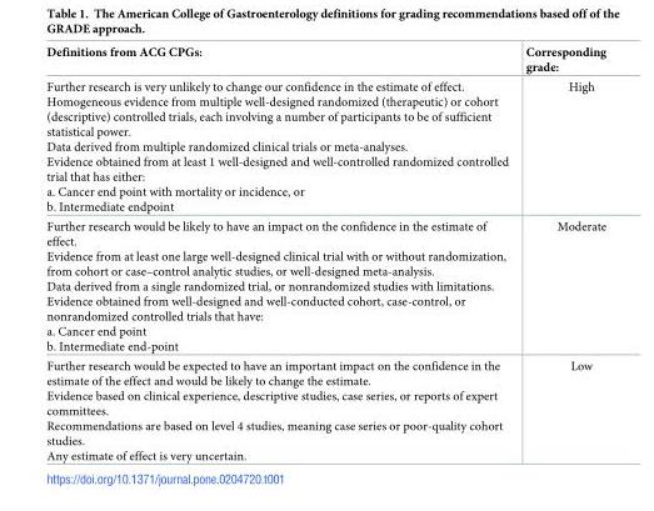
<table><thead><tr><td>Definitions from ACG CPGs:</td><td>Corresponding grade:</td></tr></thead><tbody><tr><td>Further research is very unlikely to change our confidence in the estimate of effect. Homogeneous evidence from multiple well-designed randomized (therapeutic) or cohort (descriptive) controlled trials, each involving a number of participants to be of sufficient statistical power. Data derived from multiple randomized clinical trials or meta-analyses. Evidence obtained from at least 1 well-designed and well-controlled randomized controlled trial that has either: a. Cancer end point with mortality or incidence, or b. Intermediate endpoint</td><td>High</td></tr><tr><td>Further research would be likely to have an impact on the confidence in the estimate of effect. Evidence from at least one large well-designed clinical trial with or without randomization, from cohort or case–control analytic studies, or well-designed meta-analysis. Data derived from a single randomized trial, or nonrandomized studies with limitations. Evidence obtained from well-designed and well-conducted cohort, case-control, or nonrandomized controlled trials that have: a. Cancer end point b. Intermediate end-point</td><td>Moderate</td></tr><tr><td>Further research would be expected to have an important impact on the confidence in the estimate of the effect and would be likely to change the estimate. Evidence based on clinical experience, descriptive studies, case series, or reports of expert committees. Recommendations are based on level 4 studies, meaning case series or poor-quality cohort studies. Any estimate of effect is very uncertain.</td><td>Low</td></tr></tbody></table>